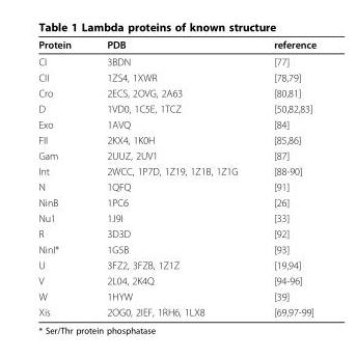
<table><thead><tr><td>Protein</td><td>PDB</td><td>reference</td></tr></thead><tbody><tr><td>CI</td><td>3BDN</td><td>[77]</td></tr><tr><td>CII</td><td>1ZS4, 1XWR</td><td>[78,79]</td></tr><tr><td>Cro</td><td>2ECS, 2OVG, 2A63</td><td>[80,81]</td></tr><tr><td>D</td><td>1VD0, 1C5E, 1TCZ</td><td>[50,82,83]</td></tr><tr><td>Exo</td><td>1AVQ</td><td>[84]</td></tr><tr><td>FII</td><td>2KX4, 1K0H</td><td>[85,86]</td></tr><tr><td>Gam</td><td>2UUZ, 2UV1</td><td>[87]</td></tr><tr><td>Int</td><td>2WCC, 1P7D, 1Z19, 1Z1B, 1Z1G</td><td>[88-90]</td></tr><tr><td>N</td><td>1QFQ</td><td>[91]</td></tr><tr><td>NinB</td><td>1PC6</td><td>[26]</td></tr><tr><td>Nu1</td><td>1J9I</td><td>[33]</td></tr><tr><td>R</td><td>3D3D</td><td>[92]</td></tr><tr><td>NinI*</td><td>1G5B</td><td>[93]</td></tr><tr><td>U</td><td>3FZ2, 3FZB, 1Z1Z</td><td>[19,94]</td></tr><tr><td>V</td><td>2L04, 2K4Q</td><td>[94-96]</td></tr><tr><td>W</td><td>1HYW</td><td>[39]</td></tr><tr><td>Xis</td><td>2OG0, 2IEF, 1RH6, 1LX8</td><td>[69,97-99]</td></tr></tbody></table>